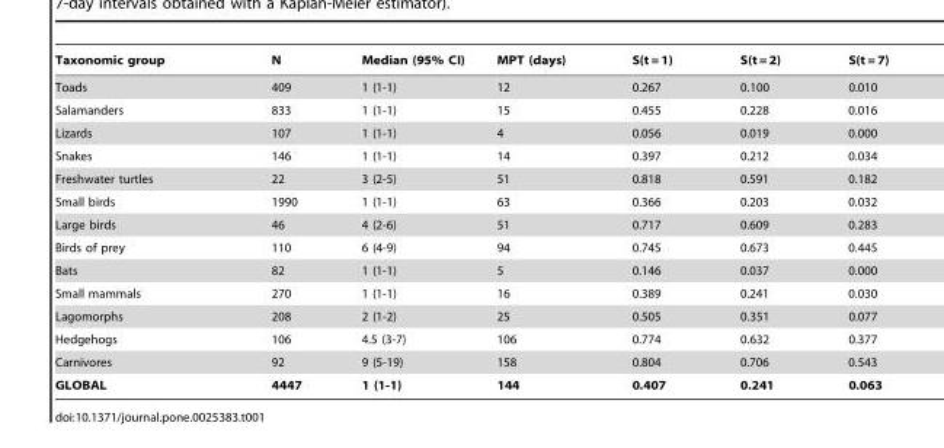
<table><thead><tr><td>Taxonomic group</td><td>N</td><td>Median (95% CI)</td><td>MPT (days)</td><td>S(t = 1)</td><td>S(t = 2)</td><td>S(t = 7)</td></tr></thead><tbody><tr><td>Toads</td><td>409</td><td>1 (1-1)</td><td>12</td><td>0.267</td><td>0.100</td><td>0.010</td></tr><tr><td>Salamanders</td><td>833</td><td>1 (1-1)</td><td>15</td><td>0.455</td><td>0.228</td><td>0.016</td></tr><tr><td>Lizards</td><td>107</td><td>1 (1-1)</td><td>4</td><td>0.056</td><td>0.019</td><td>0.000</td></tr><tr><td>Snakes</td><td>146</td><td>1 (1-1)</td><td>14</td><td>0.397</td><td>0.212</td><td>0.034</td></tr><tr><td>Freshwater turtles</td><td>22</td><td>3 (2-5)</td><td>51</td><td>0.818</td><td>0.591</td><td>0.182</td></tr><tr><td>Small birds</td><td>1990</td><td>1 (1-1)</td><td>63</td><td>0.366</td><td>0.203</td><td>0.032</td></tr><tr><td>Large birds</td><td>46</td><td>4 (2-6)</td><td>51</td><td>0.717</td><td>0.609</td><td>0.283</td></tr><tr><td>Birds of prey</td><td>110</td><td>6 (4-9)</td><td>94</td><td>0.745</td><td>0.673</td><td>0.445</td></tr><tr><td>Bats</td><td>82</td><td>1 (1-1)</td><td>5</td><td>0.146</td><td>0.037</td><td>0.000</td></tr><tr><td>Small mammals</td><td>270</td><td>1 (1-1)</td><td>16</td><td>0.389</td><td>0.241</td><td>0.030</td></tr><tr><td>Lagomorphs</td><td>208</td><td>2 (1-2)</td><td>25</td><td>0.505</td><td>0.351</td><td>0.077</td></tr><tr><td>Hedgehogs</td><td>106</td><td>4.5 (3-7)</td><td>106</td><td>0.774</td><td>0.632</td><td>0.377</td></tr><tr><td>Carnivores</td><td>92</td><td>9 (5-19)</td><td>158</td><td>0.804</td><td>0.706</td><td>0.543</td></tr><tr><td>GLOBAL</td><td>4447</td><td>1 (1-1)</td><td>144</td><td>0.407</td><td>0.241</td><td>0.063</td></tr></tbody></table>